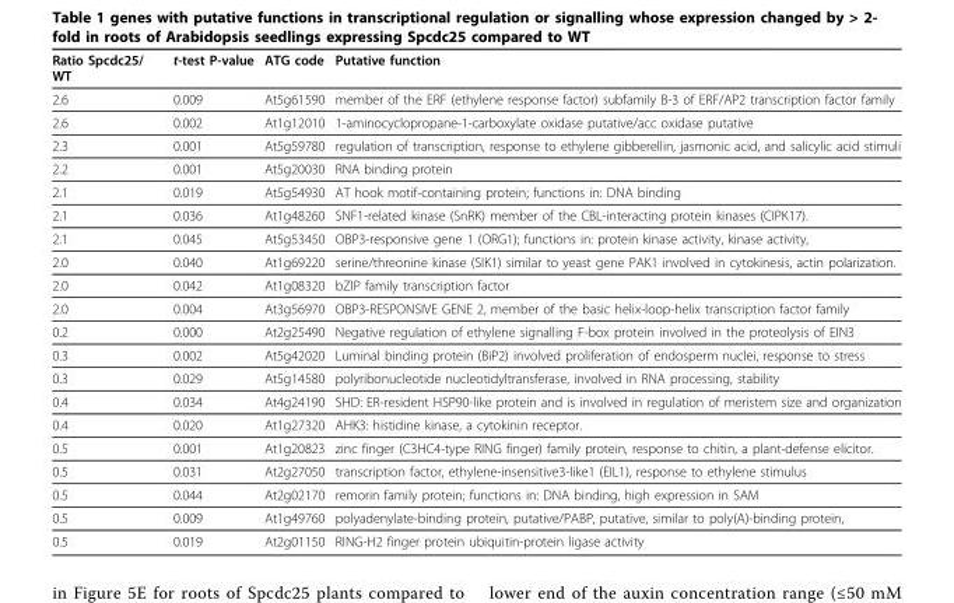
<table><thead><tr><td>Ratio Spcdc25/ WT</td><td>t-test P-value</td><td>ATG code</td><td>Putative function</td></tr></thead><tbody><tr><td>2.6</td><td>0.009</td><td>At5g61590</td><td>member of the ERF (ethylene response factor) subfamily B-3 of ERF/AP2 transcription factor family</td></tr><tr><td>2.6</td><td>0.002</td><td>At1g12010</td><td>1-aminocyclopropane-1-carboxylate oxidase putative/acc oxidase putative</td></tr><tr><td>2.3</td><td>0.001</td><td>At5g59780</td><td>regulation of transcription, response to ethylene gibberellin, jasmonic acid, and salicylic acid stimuli</td></tr><tr><td>2.2</td><td>0.001</td><td>At5g20030</td><td>RNA binding protein</td></tr><tr><td>2.1</td><td>0.019</td><td>At5g54930</td><td>AT hook motif-containing protein; functions in: DNA binding</td></tr><tr><td>2.1</td><td>0.036</td><td>At1g48260</td><td>SNF1-related kinase (SnRK) member of the CBL-interacting protein kinases (CIPK17).</td></tr><tr><td>2.1</td><td>0.045</td><td>At5g53450</td><td>OBP3-responsive gene 1 (ORG1); functions in: protein kinase activity, kinase activity,</td></tr><tr><td>2.0</td><td>0.040</td><td>At1g69220</td><td>serine/threonine kinase (SIK1) similar to yeast gene PAK1 involved in cytokinesis, actin polarization.</td></tr><tr><td>2.0</td><td>0.042</td><td>At1g08320</td><td>bZIP family transcription factor</td></tr><tr><td>2.0</td><td>0.004</td><td>At3g56970</td><td>OBP3-RESPONSIVE GENE 2, member of the basic helix-loop-helix transcription factor family</td></tr><tr><td>0.2</td><td>0.000</td><td>At2g25490</td><td>Negative regulation of ethylene signalling F-box protein involved in the proteolysis of EIN3</td></tr><tr><td>0.3</td><td>0.002</td><td>At5g42020</td><td>Luminal binding protein (BiP2) involved proliferation of endosperm nuclei, response to stress</td></tr><tr><td>0.3</td><td>0.029</td><td>At5g14580</td><td>polyribonucleotide nucleotidyltransferase, involved in RNA processing, stability</td></tr><tr><td>0.4</td><td>0.034</td><td>At4g24190</td><td>SHD: ER-resident HSP90-like protein and is involved in regulation of meristem size and organization</td></tr><tr><td>0.4</td><td>0.020</td><td>At1g27320</td><td>AHK3: histidine kinase, a cytokinin receptor.</td></tr><tr><td>0.5</td><td>0.001</td><td>At1g20823</td><td>zinc finger (C3HC4-type RING finger) family protein, response to chitin, a plant-defense elicitor.</td></tr><tr><td>0.5</td><td>0.031</td><td>At2g27050</td><td>transcription factor, ethylene-insensitive3-like1 (EIL1), response to ethylene stimulus</td></tr><tr><td>0.5</td><td>0.044</td><td>At2g02170</td><td>remorin family protein; functions in: DNA binding, high expression in SAM</td></tr><tr><td>0.5</td><td>0.009</td><td>At1g49760</td><td>polyadenylate-binding protein, putative/PABP, putative, similar to poly(A)-binding protein,</td></tr><tr><td>0.5</td><td>0.019</td><td>At2g01150</td><td>RING-H2 finger protein ubiquitin-protein ligase activity</td></tr></tbody></table>